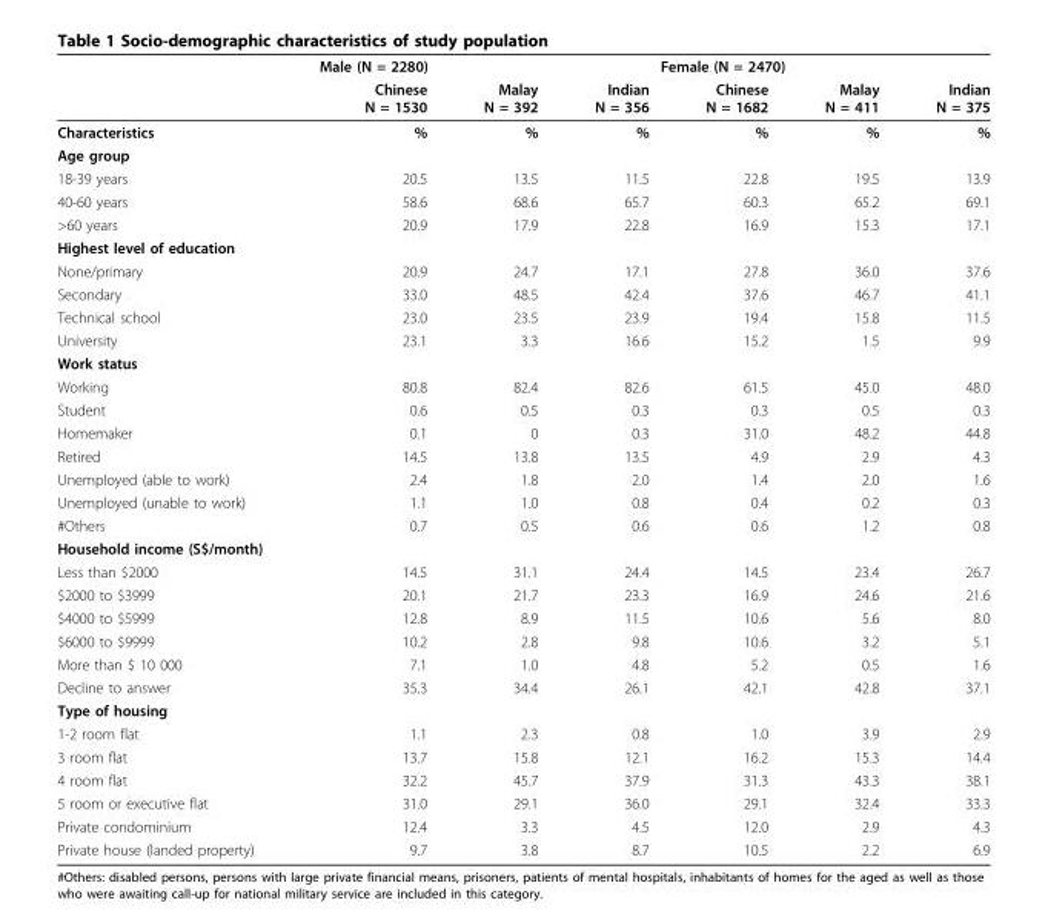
<table><thead><tr><td rowspan="2"></td><td colspan="3">Male (N = 2280)</td><td colspan="3">Female (N = 2470)</td></tr><tr><td>Chinese N = 1530</td><td>Malay N = 392</td><td>Indian N = 356</td><td>Chinese N = 1682</td><td>Malay N = 411</td><td>Indian N = 375</td></tr></thead><tbody><tr><td>Characteristics</td><td>%</td><td>%</td><td>%</td><td>%</td><td>%</td><td>%</td></tr><tr><td colspan="7">Age group</td></tr><tr><td>18-39 years</td><td>20.5</td><td>13.5</td><td>11.5</td><td>22.8</td><td>19.5</td><td>13.9</td></tr><tr><td>40-60 years</td><td>58.6</td><td>68.6</td><td>65.7</td><td>60.3</td><td>65.2</td><td>69.1</td></tr><tr><td>&gt;60 years</td><td>20.9</td><td>17.9</td><td>22.8</td><td>16.9</td><td>15.3</td><td>17.1</td></tr><tr><td colspan="7">Highest level of education</td></tr><tr><td>None/primary</td><td>20.9</td><td>24.7</td><td>17.1</td><td>27.8</td><td>36.0</td><td>37.6</td></tr><tr><td>Secondary</td><td>33.0</td><td>48.5</td><td>42.4</td><td>37.6</td><td>46.7</td><td>41.1</td></tr><tr><td>Technical school</td><td>23.0</td><td>23.5</td><td>23.9</td><td>19.4</td><td>15.8</td><td>11.5</td></tr><tr><td>University</td><td>23.1</td><td>3.3</td><td>16.6</td><td>15.2</td><td>1.5</td><td>9.9</td></tr><tr><td colspan="7">Work status</td></tr><tr><td>Working</td><td>80.8</td><td>82.4</td><td>82.6</td><td>61.5</td><td>45.0</td><td>48.0</td></tr><tr><td>Student</td><td>0.6</td><td>0.5</td><td>0.3</td><td>0.3</td><td>0.5</td><td>0.3</td></tr><tr><td>Homemaker</td><td>0.1</td><td>0</td><td>0.3</td><td>31.0</td><td>48.2</td><td>44.8</td></tr><tr><td>Retired</td><td>14.5</td><td>13.8</td><td>13.5</td><td>4.9</td><td>2.9</td><td>4.3</td></tr><tr><td>Unemployed (able to work)</td><td>2.4</td><td>1.8</td><td>2.0</td><td>1.4</td><td>2.0</td><td>1.6</td></tr><tr><td>Unemployed (unable to work)</td><td>1.1</td><td>1.0</td><td>0.8</td><td>0.4</td><td>0.2</td><td>0.3</td></tr><tr><td>#Others</td><td>0.7</td><td>0.5</td><td>0.6</td><td>0.6</td><td>1.2</td><td>0.8</td></tr><tr><td colspan="7">Household income (S$/month)</td></tr><tr><td>Less than $2000</td><td>14.5</td><td>31.1</td><td>24.4</td><td>14.5</td><td>23.4</td><td>26.7</td></tr><tr><td>$2000 to $3999</td><td>20.1</td><td>21.7</td><td>23.3</td><td>16.9</td><td>24.6</td><td>21.6</td></tr><tr><td>$4000 to $5999</td><td>12.8</td><td>8.9</td><td>11.5</td><td>10.6</td><td>5.6</td><td>8.0</td></tr><tr><td>$6000 to $9999</td><td>10.2</td><td>2.8</td><td>9.8</td><td>10.6</td><td>3.2</td><td>5.1</td></tr><tr><td>More than $ 10 000</td><td>7.1</td><td>1.0</td><td>4.8</td><td>5.2</td><td>0.5</td><td>1.6</td></tr><tr><td>Decline to answer</td><td>35.3</td><td>34.4</td><td>26.1</td><td>42.1</td><td>42.8</td><td>37.1</td></tr><tr><td colspan="7">Type of housing</td></tr><tr><td>1-2 room flat</td><td>1.1</td><td>2.3</td><td>0.8</td><td>1.0</td><td>3.9</td><td>2.9</td></tr><tr><td>3 room flat</td><td>13.7</td><td>15.8</td><td>12.1</td><td>16.2</td><td>15.3</td><td>14.4</td></tr><tr><td>4 room flat</td><td>32.2</td><td>45.7</td><td>37.9</td><td>31.3</td><td>43.3</td><td>38.1</td></tr><tr><td>5 room or executive flat</td><td>31.0</td><td>29.1</td><td>36.0</td><td>29.1</td><td>32.4</td><td>33.3</td></tr><tr><td>Private condominium</td><td>12.4</td><td>3.3</td><td>4.5</td><td>12.0</td><td>2.9</td><td>4.3</td></tr><tr><td>Private house (landed property)</td><td>9.7</td><td>3.8</td><td>8.7</td><td>10.5</td><td>2.2</td><td>6.9</td></tr></tbody></table>